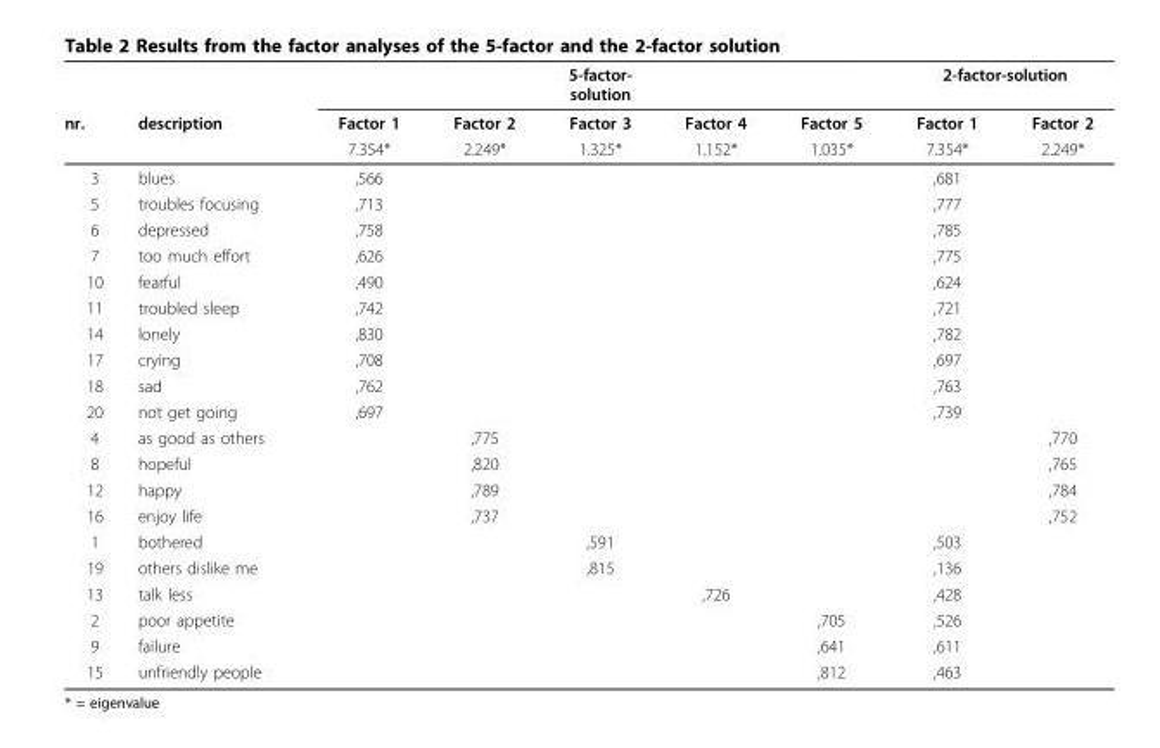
<table><thead><tr><td rowspan="3">nr.</td><td rowspan="3">description</td><td colspan="5">5-factor- solution</td><td colspan="2">2-factor-solution</td></tr><tr><td rowspan="2">Factor 1 7.354*</td><td rowspan="2">Factor 2 2.249*</td><td rowspan="2">Factor 3 1.325*</td><td rowspan="2">Factor 4 1.152*</td><td rowspan="2">Factor 5 1.035*</td><td rowspan="2">Factor 1 7.354*</td><td rowspan="2">Factor 2 2.249*</td></tr><tr></tr></thead><tbody><tr><td>3</td><td>blues</td><td>,566</td><td></td><td></td><td></td><td></td><td>,681</td><td></td></tr><tr><td>5</td><td>troubles focusing</td><td>,713</td><td></td><td></td><td></td><td></td><td>,777</td><td></td></tr><tr><td>6</td><td>depressed</td><td>,758</td><td></td><td></td><td></td><td></td><td>,785</td><td></td></tr><tr><td>7</td><td>too much effort</td><td>,626</td><td></td><td></td><td></td><td></td><td>,775</td><td></td></tr><tr><td>10</td><td>fearful</td><td>,490</td><td></td><td></td><td></td><td></td><td>,624</td><td></td></tr><tr><td>11</td><td>troubled sleep</td><td>,742</td><td></td><td></td><td></td><td></td><td>,721</td><td></td></tr><tr><td>14</td><td>lonely</td><td>,830</td><td></td><td></td><td></td><td></td><td>,782</td><td></td></tr><tr><td>17</td><td>crying</td><td>,708</td><td></td><td></td><td></td><td></td><td>,697</td><td></td></tr><tr><td>18</td><td>sad</td><td>,762</td><td></td><td></td><td></td><td></td><td>,763</td><td></td></tr><tr><td>20</td><td>not get going</td><td>,697</td><td></td><td></td><td></td><td></td><td>,739</td><td></td></tr><tr><td>4</td><td>as good as others</td><td></td><td>,775</td><td></td><td></td><td></td><td></td><td>,770</td></tr><tr><td>8</td><td>hopeful</td><td></td><td>,820</td><td></td><td></td><td></td><td></td><td>,765</td></tr><tr><td>12</td><td>happy</td><td></td><td>,789</td><td></td><td></td><td></td><td></td><td>,784</td></tr><tr><td>16</td><td>enjoy life</td><td></td><td>,737</td><td></td><td></td><td></td><td></td><td>,752</td></tr><tr><td>1</td><td>bothered</td><td></td><td></td><td>,591</td><td></td><td></td><td>,503</td><td></td></tr><tr><td>19</td><td>others dislike me</td><td></td><td></td><td>,815</td><td></td><td></td><td>,136</td><td></td></tr><tr><td>13</td><td>talk less</td><td></td><td></td><td></td><td>,726</td><td></td><td>,428</td><td></td></tr><tr><td>2</td><td>poor appetite</td><td></td><td></td><td></td><td></td><td>,705</td><td>,526</td><td></td></tr><tr><td>9</td><td>failure</td><td></td><td></td><td></td><td></td><td>,641</td><td>,611</td><td></td></tr><tr><td>15</td><td>unfriendly people</td><td></td><td></td><td></td><td></td><td>,812</td><td>,463</td><td></td></tr></tbody></table>